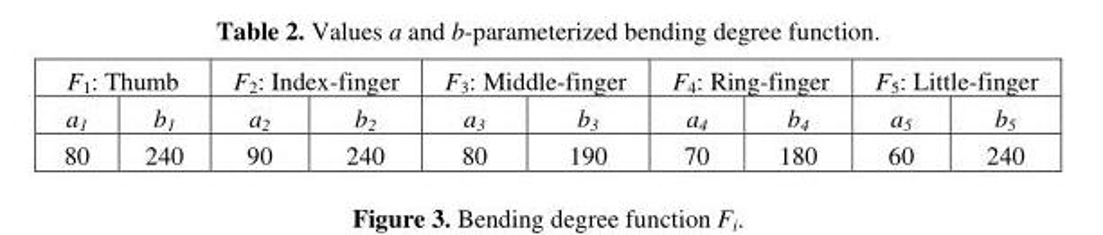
<table><thead><tr><td colspan="2">F<sub>1</sub>: Thumb</td><td colspan="2">F<sub>2</sub>: Index-finger</td><td colspan="2">F<sub>3</sub>: Middle-finger</td><td colspan="2">F<sub>4</sub>: Ring-finger</td><td colspan="2">F<sub>5</sub>: Little-finger</td></tr><tr><td>a<sub>1</sub></td><td>b<sub>1</sub></td><td>a<sub>2</sub></td><td>b<sub>2</sub></td><td>a<sub>3</sub></td><td>b<sub>3</sub></td><td>a<sub>4</sub></td><td>b<sub>4</sub></td><td>a<sub>5</sub></td><td>b<sub>5</sub></td></tr></thead><tbody><tr><td>80</td><td>240</td><td>90</td><td>240</td><td>80</td><td>190</td><td>70</td><td>180</td><td>60</td><td>240</td></tr></tbody></table>